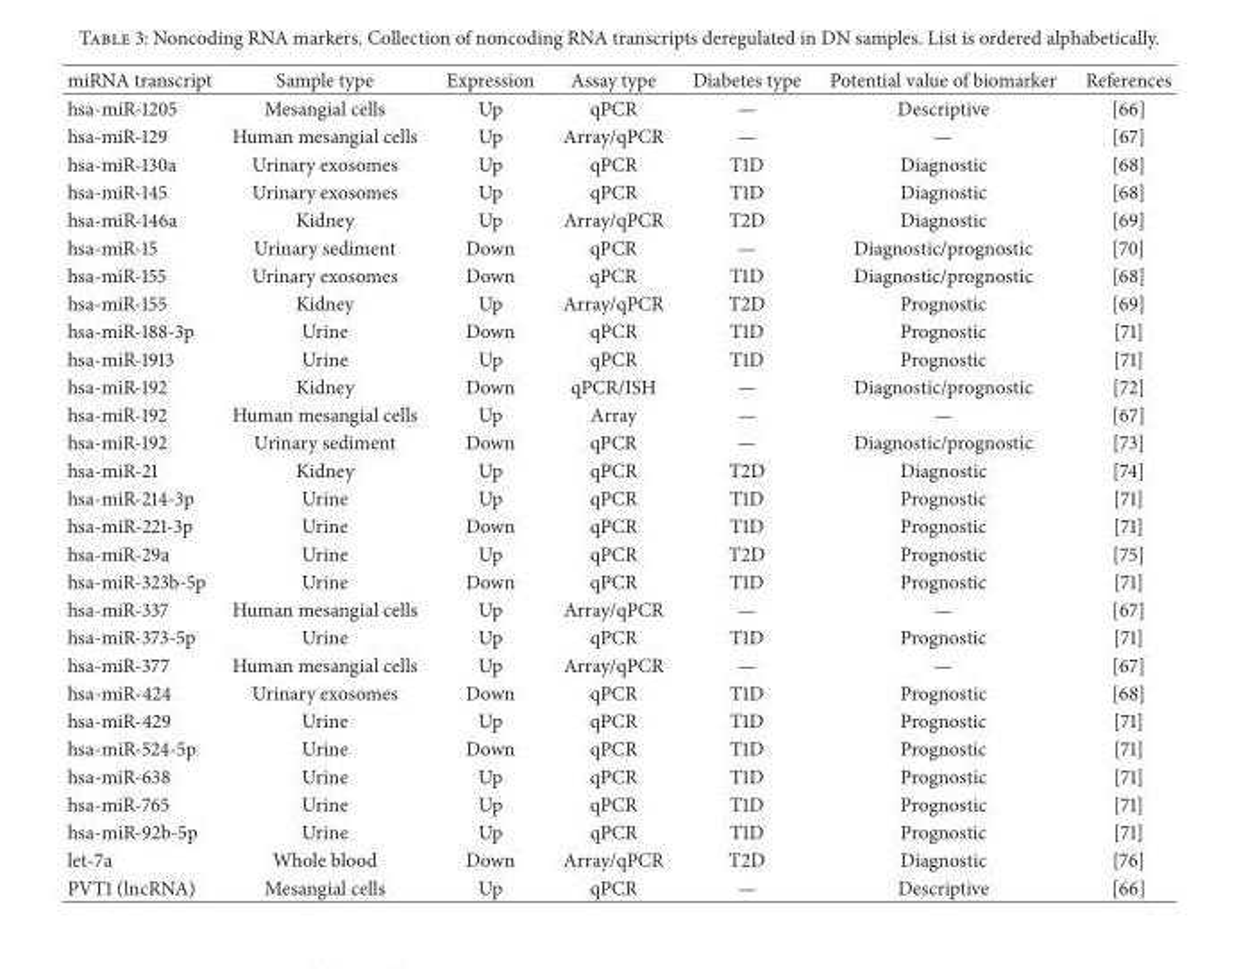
<table><thead><tr><td>miRNA transcript</td><td>Sample type</td><td>Expression</td><td>Assay type</td><td>Diabetes type</td><td>Potential value of biomarker</td><td>References</td></tr></thead><tbody><tr><td>hsa-miR-1205</td><td>Mesangial cells</td><td>Up</td><td>qPCR</td><td>—</td><td>Descriptive</td><td>[66]</td></tr><tr><td>hsa-miR-129</td><td>Human mesangial cells</td><td>Up</td><td>Array/qPCR</td><td>—</td><td>—</td><td>[67]</td></tr><tr><td>hsa-miR-130a</td><td>Urinary exosomes</td><td>Up</td><td>qPCR</td><td>T1D</td><td>Diagnostic</td><td>[68]</td></tr><tr><td>hsa-miR-145</td><td>Urinary exosomes</td><td>Up</td><td>qPCR</td><td>T1D</td><td>Diagnostic</td><td>[68]</td></tr><tr><td>hsa-miR-146a</td><td>Kidney</td><td>Up</td><td>Array/qPCR</td><td>T2D</td><td>Diagnostic</td><td>[69]</td></tr><tr><td>hsa-miR-15</td><td>Urinary sediment</td><td>Down</td><td>qPCR</td><td>—</td><td>Diagnostic/prognostic</td><td>[70]</td></tr><tr><td>hsa-miR-155</td><td>Urinary exosomes</td><td>Down</td><td>qPCR</td><td>T1D</td><td>Diagnostic/prognostic</td><td>[68]</td></tr><tr><td>hsa-miR-155</td><td>Kidney</td><td>Up</td><td>Array/qPCR</td><td>T2D</td><td>Prognostic</td><td>[69]</td></tr><tr><td>hsa-miR-188-3p</td><td>Urine</td><td>Down</td><td>qPCR</td><td>T1D</td><td>Prognostic</td><td>[71]</td></tr><tr><td>hsa-miR-1913</td><td>Urine</td><td>Up</td><td>qPCR</td><td>T1D</td><td>Prognostic</td><td>[71]</td></tr><tr><td>hsa-miR-192</td><td>Kidney</td><td>Down</td><td>qPCR/ISH</td><td>—</td><td>Diagnostic/prognostic</td><td>[72]</td></tr><tr><td>hsa-miR-192</td><td>Human mesangial cells</td><td>Up</td><td>Array</td><td>—</td><td>—</td><td>[67]</td></tr><tr><td>hsa-miR-192</td><td>Urinary sediment</td><td>Down</td><td>qPCR</td><td>—</td><td>Diagnostic/prognostic</td><td>[73]</td></tr><tr><td>hsa-miR-21</td><td>Kidney</td><td>Up</td><td>qPCR</td><td>T2D</td><td>Diagnostic</td><td>[74]</td></tr><tr><td>hsa-miR-214-3p</td><td>Urine</td><td>Up</td><td>qPCR</td><td>T1D</td><td>Prognostic</td><td>[71]</td></tr><tr><td>hsa-miR-221-3p</td><td>Urine</td><td>Down</td><td>qPCR</td><td>T1D</td><td>Prognostic</td><td>[71]</td></tr><tr><td>hsa-miR-29a</td><td>Urine</td><td>Up</td><td>qPCR</td><td>T2D</td><td>Prognostic</td><td>[75]</td></tr><tr><td>hsa-miR-323b-5p</td><td>Urine</td><td>Down</td><td>qPCR</td><td>T1D</td><td>Prognostic</td><td>[71]</td></tr><tr><td>hsa-miR-337</td><td>Human mesangial cells</td><td>Up</td><td>Array/qPCR</td><td>—</td><td>—</td><td>[67]</td></tr><tr><td>hsa-miR-373-5p</td><td>Urine</td><td>Up</td><td>qPCR</td><td>T1D</td><td>Prognostic</td><td>[71]</td></tr><tr><td>hsa-miR-377</td><td>Human mesangial cells</td><td>Up</td><td>Array/qPCR</td><td>—</td><td>—</td><td>[67]</td></tr><tr><td>hsa-miR-424</td><td>Urinary exosomes</td><td>Down</td><td>qPCR</td><td>T1D</td><td>Prognostic</td><td>[68]</td></tr><tr><td>hsa-miR-429</td><td>Urine</td><td>Up</td><td>qPCR</td><td>T1D</td><td>Prognostic</td><td>[71]</td></tr><tr><td>hsa-miR-524-5p</td><td>Urine</td><td>Down</td><td>qPCR</td><td>T1D</td><td>Prognostic</td><td>[71]</td></tr><tr><td>hsa-miR-638</td><td>Urine</td><td>Up</td><td>qPCR</td><td>T1D</td><td>Prognostic</td><td>[71]</td></tr><tr><td>hsa-miR-765</td><td>Urine</td><td>Up</td><td>qPCR</td><td>T1D</td><td>Prognostic</td><td>[71]</td></tr><tr><td>hsa-miR-92b-5p</td><td>Urine</td><td>Up</td><td>qPCR</td><td>T1D</td><td>Prognostic</td><td>[71]</td></tr><tr><td>let-7a</td><td>Whole blood</td><td>Down</td><td>Array/qPCR</td><td>T2D</td><td>Diagnostic</td><td>[76]</td></tr><tr><td>PVT1 (lncRNA)</td><td>Mesangial cells</td><td>Up</td><td>qPCR</td><td>—</td><td>Descriptive</td><td>[66]</td></tr></tbody></table>